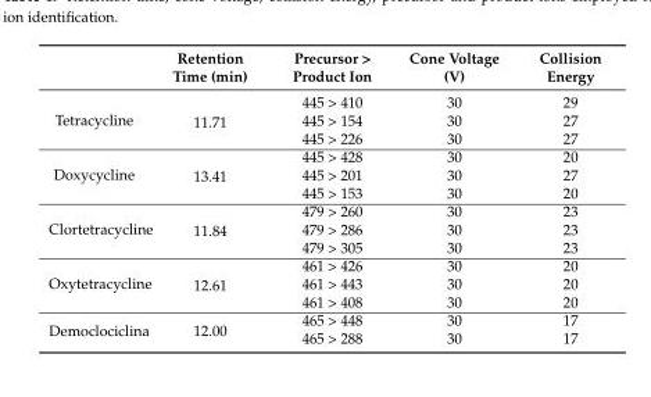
<table><thead><tr><td></td><td>Retention Time (min)</td><td>Precursor &gt; Product Ion</td><td>Cone Voltage (V)</td><td>Collision Energy</td></tr></thead><tbody><tr><td rowspan="3">Tetracycline</td><td rowspan="3">11.71</td><td>445 &gt; 410</td><td>30</td><td>29</td></tr><tr><td>445 &gt; 154</td><td>30</td><td>27</td></tr><tr><td>445 &gt; 226</td><td>30</td><td>27</td></tr><tr><td rowspan="3">Doxycycline</td><td rowspan="3">13.41</td><td>445 &gt; 428</td><td>30</td><td>20</td></tr><tr><td>445 &gt; 201</td><td>30</td><td>27</td></tr><tr><td>445 &gt; 153</td><td>30</td><td>20</td></tr><tr><td rowspan="3">Clortetracycline</td><td rowspan="3">11.84</td><td>479 &gt; 260</td><td>30</td><td>23</td></tr><tr><td>479 &gt; 286</td><td>30</td><td>23</td></tr><tr><td>479 &gt; 305</td><td>30</td><td>23</td></tr><tr><td rowspan="3">Oxytetracycline</td><td rowspan="3">12.61</td><td>461 &gt; 426</td><td>30</td><td>20</td></tr><tr><td>461 &gt; 443</td><td>30</td><td>20</td></tr><tr><td>461 &gt; 408</td><td>30</td><td>20</td></tr><tr><td rowspan="2">Democlociclina</td><td rowspan="2">12.00</td><td>465 &gt; 448</td><td>30</td><td>17</td></tr><tr><td>465 &gt; 288</td><td>30</td><td>17</td></tr></tbody></table>